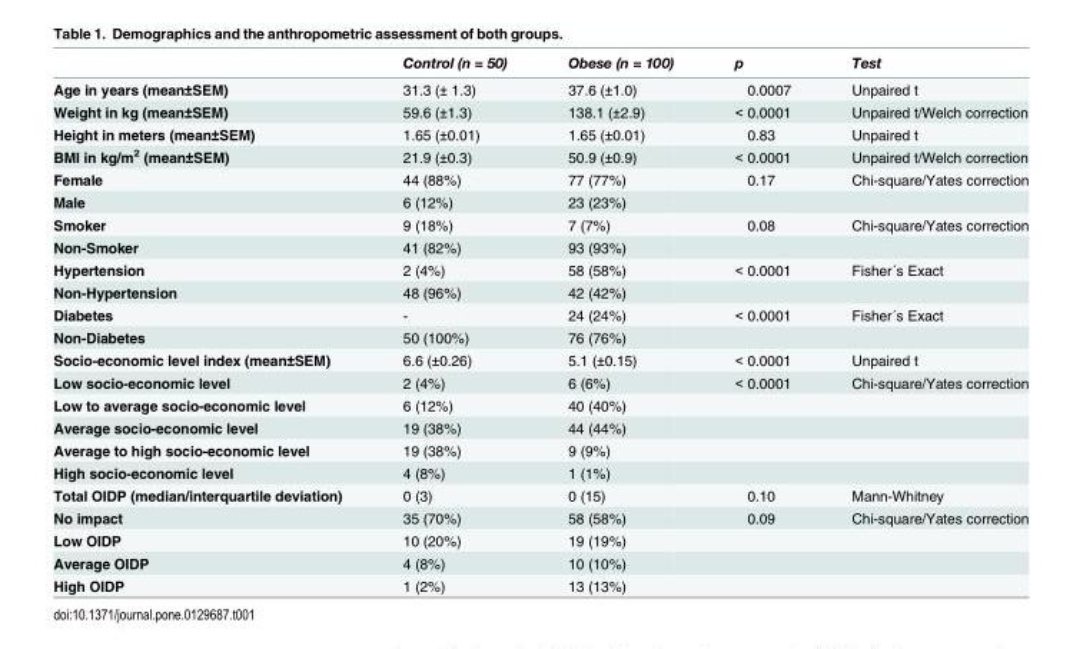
<table><thead><tr><td></td><td>Control (n = 50)</td><td>Obese (n = 100)</td><td>p</td><td>Test</td></tr></thead><tbody><tr><td>Age in years (mean±SEM)</td><td>31.3 (± 1.3)</td><td>37.6 (±1.0)</td><td>0.0007</td><td>Unpaired t</td></tr><tr><td>Weight in kg (mean±SEM)</td><td>59.6 (±1.3)</td><td>138.1 (±2.9)</td><td>&lt; 0.0001</td><td>Unpaired t/Welch correction</td></tr><tr><td>Height in meters (mean±SEM)</td><td>1.65 (±0.01)</td><td>1.65 (±0.01)</td><td>0.83</td><td>Unpaired t</td></tr><tr><td>BMI in kg/m<sup>2</sup> (mean±SEM)</td><td>21.9 (±0.3)</td><td>50.9 (±0.9)</td><td>&lt; 0.0001</td><td>Unpaired t/Welch correction</td></tr><tr><td>Female</td><td>44 (88%)</td><td>77 (77%)</td><td>0.17</td><td>Chi-square/Yates correction</td></tr><tr><td>Male</td><td>6 (12%)</td><td>23 (23%)</td><td></td><td></td></tr><tr><td>Smoker</td><td>9 (18%)</td><td>7 (7%)</td><td>0.08</td><td>Chi-square/Yates correction</td></tr><tr><td>Non-Smoker</td><td>41 (82%)</td><td>93 (93%)</td><td></td><td></td></tr><tr><td>Hypertension</td><td>2 (4%)</td><td>58 (58%)</td><td>&lt; 0.0001</td><td>Fisher´s Exact</td></tr><tr><td>Non-Hypertension</td><td>48 (96%)</td><td>42 (42%)</td><td></td><td></td></tr><tr><td>Diabetes</td><td>-</td><td>24 (24%)</td><td>&lt; 0.0001</td><td>Fisher´s Exact</td></tr><tr><td>Non-Diabetes</td><td>50 (100%)</td><td>76 (76%)</td><td></td><td></td></tr><tr><td>Socio-economic level index (mean±SEM)</td><td>6.6 (±0.26)</td><td>5.1 (±0.15)</td><td>&lt; 0.0001</td><td>Unpaired t</td></tr><tr><td>Low socio-economic level</td><td>2 (4%)</td><td>6 (6%)</td><td>&lt; 0.0001</td><td>Chi-square/Yates correction</td></tr><tr><td>Low to average socio-economic level</td><td>6 (12%)</td><td>40 (40%)</td><td></td><td></td></tr><tr><td>Average socio-economic level</td><td>19 (38%)</td><td>44 (44%)</td><td></td><td></td></tr><tr><td>Average to high socio-economic level</td><td>19 (38%)</td><td>9 (9%)</td><td></td><td></td></tr><tr><td>High socio-economic level</td><td>4 (8%)</td><td>1 (1%)</td><td></td><td></td></tr><tr><td>Total OIDP (median/interquartile deviation)</td><td>0 (3)</td><td>0 (15)</td><td>0.10</td><td>Mann-Whitney</td></tr><tr><td>No impact</td><td>35 (70%)</td><td>58 (58%)</td><td>0.09</td><td>Chi-square/Yates correction</td></tr><tr><td>Low OIDP</td><td>10 (20%)</td><td>19 (19%)</td><td></td><td></td></tr><tr><td>Average OIDP</td><td>4 (8%)</td><td>10 (10%)</td><td></td><td></td></tr><tr><td>High OIDP</td><td>1 (2%)</td><td>13 (13%)</td><td></td><td></td></tr></tbody></table>